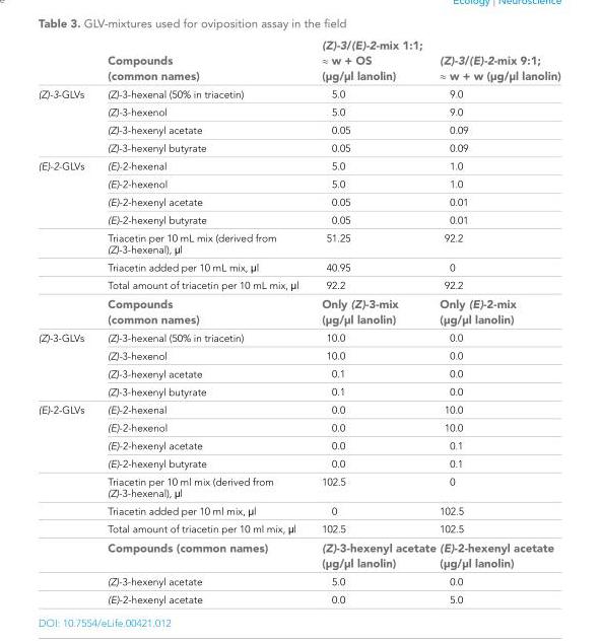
<table><thead><tr><td></td><td>Compounds (common names)</td><td>(Z)-3/(E)-2-mix 1:1; ≈ w + OS (µg/µl lanolin)</td><td>(Z)-3/(E)-2-mix 9:1; ≈ w + w (µg/µl lanolin)</td></tr></thead><tbody><tr><td rowspan="4">(Z)-3-GLVs</td><td>(Z)-3-hexenal (50% in triacetin)</td><td>5.0</td><td>9.0</td></tr><tr><td>(Z)-3-hexenol</td><td>5.0</td><td>9.0</td></tr><tr><td>(Z)-3-hexenyl acetate</td><td>0.05</td><td>0.09</td></tr><tr><td>(Z)-3-hexenyl butyrate</td><td>0.05</td><td>0.09</td></tr><tr><td rowspan="8">(E)-2-GLVs</td><td>(E)-2-hexenal</td><td>5.0</td><td>1.0</td></tr><tr><td>(E)-2-hexenol</td><td>5.0</td><td>1.0</td></tr><tr><td>(E)-2-hexenyl acetate</td><td>0.05</td><td>0.01</td></tr><tr><td>(E)-2-hexenyl butyrate</td><td>0.05</td><td>0.01</td></tr><tr><td>Triacetin per 10 mL mix (derived from (Z)-3-hexenal), μl</td><td>51.25</td><td>92.2</td></tr><tr><td>Triacetin added per 10 mL mix, μl</td><td>40.95</td><td>0</td></tr><tr><td>Total amount of triacetin per 10 mL mix, μl</td><td>92.2</td><td>92.2</td></tr><tr><td>Compounds (common names)</td><td>Only (Z)-3-mix (µg/µl lanolin)</td><td>Only (E)-2-mix (µg/µl lanolin)</td></tr><tr><td rowspan="4">(Z)-3-GLVs</td><td>(Z)-3-hexenal (50% in triacetin)</td><td>10.0</td><td>0.0</td></tr><tr><td>(Z)-3-hexenol</td><td>10.0</td><td>0.0</td></tr><tr><td>(Z)-3-hexenyl acetate</td><td>0.1</td><td>0.0</td></tr><tr><td>(Z)-3-hexenyl butyrate</td><td>0.1</td><td>0.0</td></tr><tr><td rowspan="10">(E)-2-GLVs</td><td>(E)-2-hexenal</td><td>0.0</td><td>10.0</td></tr><tr><td>(E)-2-hexenol</td><td>0.0</td><td>10.0</td></tr><tr><td>(E)-2-hexenyl acetate</td><td>0.0</td><td>0.1</td></tr><tr><td>(E)-2-hexenyl butyrate</td><td>0.0</td><td>0.1</td></tr><tr><td>Triacetin per 10 ml mix (derived from (Z)-3-hexenal), μl</td><td>102.5</td><td>0</td></tr><tr><td>Triacetin added per 10 ml mix, μl</td><td>0</td><td>102.5</td></tr><tr><td>Total amount of triacetin per 10 ml mix, μl</td><td>102.5</td><td>102.5</td></tr><tr><td>Compounds (common names)</td><td>(Z)-3-hexenyl acetate (µg/µl lanolin)</td><td>(E)-2-hexenyl acetate (µg/µl lanolin)</td></tr><tr><td>(Z)-3-hexenyl acetate</td><td>5.0</td><td>0.0</td></tr><tr><td>(E)-2-hexenyl acetate</td><td>0.0</td><td>5.0</td></tr></tbody></table>